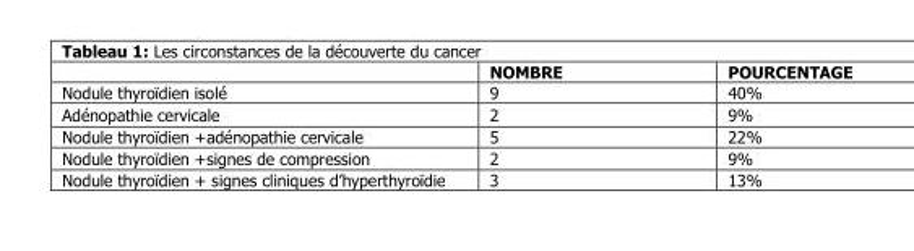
<table><thead><tr><td></td><td>NOMBRE</td><td>POURCENTAGE</td></tr></thead><tbody><tr><td>Nodule thyroïdien isolé</td><td>9</td><td>40%</td></tr><tr><td>Adénopathie cervicale</td><td>2</td><td>9%</td></tr><tr><td>Nodule thyroïdien +adénopathie cervicale</td><td>5</td><td>22%</td></tr><tr><td>Nodule thyroïdien +signes de compression</td><td>2</td><td>9%</td></tr><tr><td>Nodule thyroïdien + signes cliniques d’hyperthyroïdie</td><td>3</td><td>13%</td></tr></tbody></table>